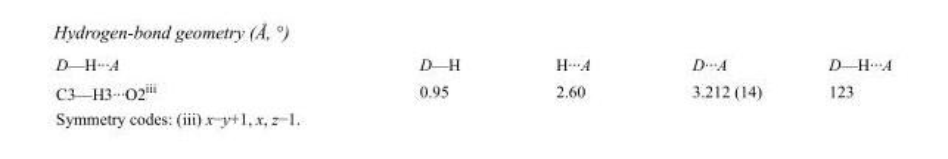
<table><tbody><tr><td>D—H···A</td><td>D—H</td><td>H···A</td><td>D···A</td><td>D—H···A</td></tr><tr><td>C3—H3···O2<sup>iii</sup></td><td>0.95</td><td>2.60</td><td>3.212 (14)</td><td>123</td></tr></tbody></table>